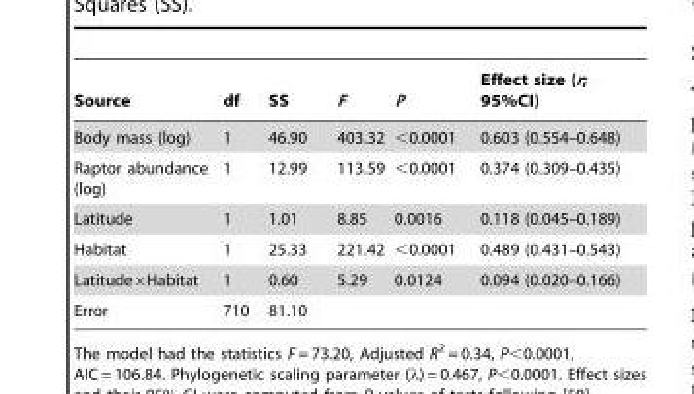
<table><thead><tr><td>Source</td><td>df</td><td>SS</td><td>F</td><td>P</td><td>Effect size (r; 95%CI)</td></tr></thead><tbody><tr><td>Body mass (log)</td><td>1</td><td>46.90</td><td>403.32</td><td>&lt;0.0001</td><td>0.603 (0.554–0.648)</td></tr><tr><td>Raptor abundance (log)</td><td>1</td><td>12.99</td><td>113.59</td><td>&lt;0.0001</td><td>0.374 (0.309–0.435)</td></tr><tr><td>Latitude</td><td>1</td><td>1.01</td><td>8.85</td><td>0.0016</td><td>0.118 (0.045–0.189)</td></tr><tr><td>Habitat</td><td>1</td><td>25.33</td><td>221.42</td><td>&lt;0.0001</td><td>0.489 (0.431–0.543)</td></tr><tr><td>Latitude×Habitat</td><td>1</td><td>0.60</td><td>5.29</td><td>0.0124</td><td>0.094 (0.020–0.166)</td></tr><tr><td>Error</td><td>710</td><td>81.10</td><td></td><td></td><td></td></tr></tbody></table>